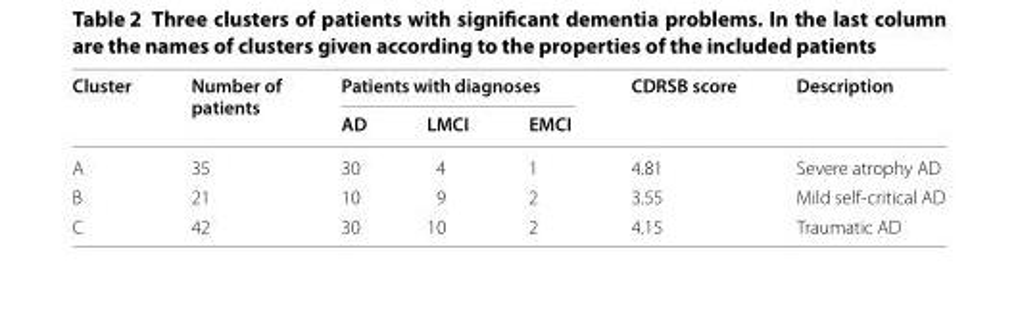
<table><thead><tr><td rowspan="2">Cluster</td><td rowspan="2">Number of patients</td><td colspan="3">Patients with diagnoses</td><td rowspan="2">CDRSB score</td><td rowspan="2">Description</td></tr><tr><td>AD</td><td>LMCI</td><td>EMCI</td></tr></thead><tbody><tr><td>A</td><td>35</td><td>30</td><td>4</td><td>1</td><td>4.81</td><td>Severe atrophy AD</td></tr><tr><td>B</td><td>21</td><td>10</td><td>9</td><td>2</td><td>3.55</td><td>Mild self-critical AD</td></tr><tr><td>C</td><td>42</td><td>30</td><td>10</td><td>2</td><td>4.15</td><td>Traumatic AD</td></tr></tbody></table>